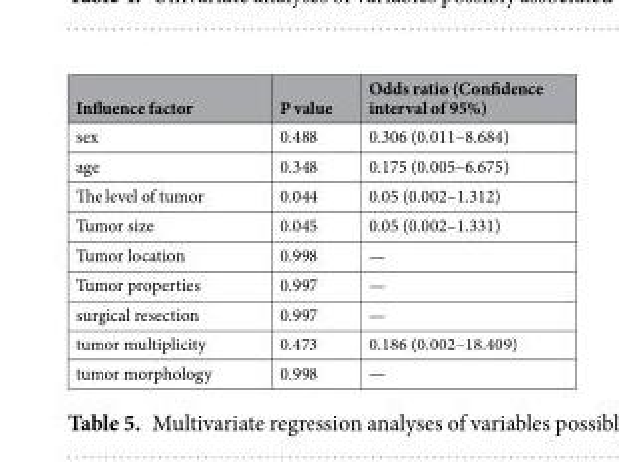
<table><thead><tr><td>Influence factor</td><td>P value</td><td>Odds ratio (Confidence interval of 95%)</td></tr></thead><tbody><tr><td>sex</td><td>0.488</td><td>0.306 (0.011–8.684)</td></tr><tr><td>age</td><td>0.348</td><td>0.175 (0.005–6.675)</td></tr><tr><td>The level of tumor</td><td>0.044</td><td>0.05 (0.002–1.312)</td></tr><tr><td>Tumor size</td><td>0.045</td><td>0.05 (0.002–1.331)</td></tr><tr><td>Tumor location</td><td>0.998</td><td>—</td></tr><tr><td>Tumor properties</td><td>0.997</td><td>—</td></tr><tr><td>surgical resection</td><td>0.997</td><td>—</td></tr><tr><td>tumor multiplicity</td><td>0.473</td><td>0.186 (0.002–18.409)</td></tr><tr><td>tumor morphology</td><td>0.998</td><td>—</td></tr></tbody></table>